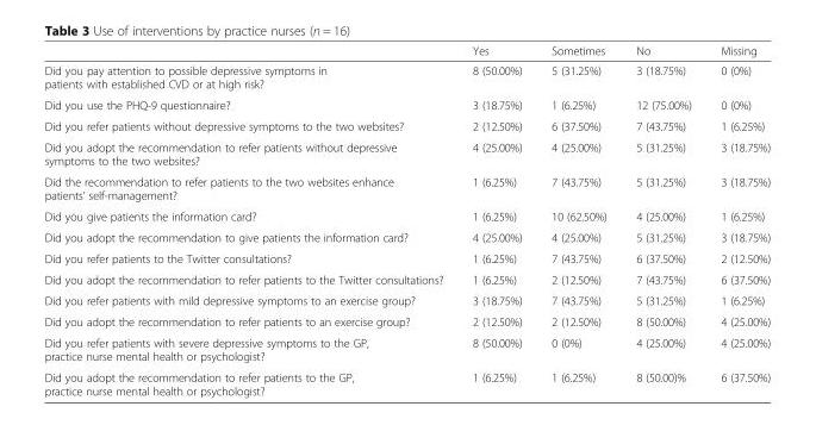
<table><thead><tr><td></td><td>Yes</td><td>Sometimes</td><td>No</td><td>Missing</td></tr></thead><tbody><tr><td>Did you pay attention to possible depressive symptoms in patients with established CVD or at high risk?</td><td>8 (50.00%)</td><td>5 (31.25%)</td><td>3 (18.75%)</td><td>0 (0%)</td></tr><tr><td>Did you use the PHQ-9 questionnaire?</td><td>3 (18.75%)</td><td>1 (6.25%)</td><td>12 (75.00%)</td><td>0 (0%)</td></tr><tr><td>Did you refer patients without depressive symptoms to the two websites?</td><td>2 (12.50%)</td><td>6 (37.50%)</td><td>7 (43.75%)</td><td>1 (6.25%)</td></tr><tr><td>Did you adopt the recommendation to refer patients without depressive symptoms to the two websites?</td><td>4 (25.00%)</td><td>4 (25.00%)</td><td>5 (31.25%)</td><td>3 (18.75%)</td></tr><tr><td>Did the recommendation to refer patients to the two websites enhance patients’ self-management?</td><td>1 (6.25%)</td><td>7 (43.75%)</td><td>5 (31.25%)</td><td>3 (18.75%)</td></tr><tr><td>Did you give patients the information card?</td><td>1 (6.25%)</td><td>10 (62.50%)</td><td>4 (25.00%)</td><td>1 (6.25%)</td></tr><tr><td>Did you adopt the recommendation to give patients the information card?</td><td>4 (25.00%)</td><td>4 (25.00%)</td><td>5 (31.25%)</td><td>3 (18.75%)</td></tr><tr><td>Did you refer patients to the Twitter consultations?</td><td>1 (6.25%)</td><td>7 (43.75%)</td><td>6 (37.50%)</td><td>2 (12.50%)</td></tr><tr><td>Did you adopt the recommendation to refer patients to the Twitter consultations?</td><td>1 (6.25%)</td><td>2 (12.50%)</td><td>7 (43.75%)</td><td>6 (37.50%)</td></tr><tr><td>Did you refer patients with mild depressive symptoms to an exercise group?</td><td>3 (18.75%)</td><td>7 (43.75%)</td><td>5 (31.25%)</td><td>1 (6.25%)</td></tr><tr><td>Did you adopt the recommendation to refer patients to an exercise group?</td><td>2 (12.50%)</td><td>2 (12.50%)</td><td>8 (50.00%)</td><td>4 (25.00%)</td></tr><tr><td>Did you refer patients with severe depressive symptoms to the GP, practice nurse mental health or psychologist?</td><td>8 (50.00%)</td><td>0 (0%)</td><td>4 (25.00%)</td><td>4 (25.00%)</td></tr><tr><td>Did you adopt the recommendation to refer patients to the GP, practice nurse mental health or psychologist?</td><td>1 (6.25%)</td><td>1 (6.25%)</td><td>8 (50.00)%</td><td>6 (37.50%)</td></tr></tbody></table>